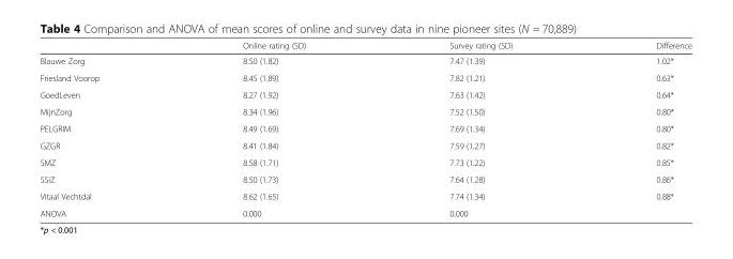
<table><thead><tr><td></td><td>Online rating (SD)</td><td>Survey rating (SD)</td><td>Difference</td></tr></thead><tbody><tr><td>Blauwe Zorg</td><td>8.50 (1.82)</td><td>7.47 (1.39)</td><td>1.02*</td></tr><tr><td>Friesland Voorop</td><td>8.45 (1.89)</td><td>7.82 (1.21)</td><td>0.63*</td></tr><tr><td>GoedLeven</td><td>8.27 (1.92)</td><td>7.63 (1.42)</td><td>0.64*</td></tr><tr><td>MijnZorg</td><td>8.34 (1.96)</td><td>7.52 (1.50)</td><td>0.80*</td></tr><tr><td>PELGRIM</td><td>8.49 (1.69)</td><td>7.69 (1.34)</td><td>0.80*</td></tr><tr><td>GZGR</td><td>8.41 (1.84)</td><td>7.59 (1.27)</td><td>0.82*</td></tr><tr><td>SMZ</td><td>8.58 (1.71)</td><td>7.73 (1.22)</td><td>0.85*</td></tr><tr><td>SSiZ</td><td>8.50 (1.73)</td><td>7.64 (1.28)</td><td>0.86*</td></tr><tr><td>Vitaal Vechtdal</td><td>8.62 (1.65)</td><td>7.74 (1.34)</td><td>0.88*</td></tr><tr><td>ANOVA</td><td>0.000</td><td>0.000</td><td></td></tr></tbody></table>